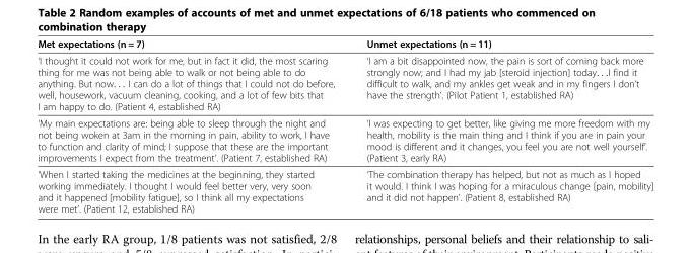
<table><thead><tr><td>Met expectations (n = 7)</td><td>Unmet expectations (n = 11)</td></tr></thead><tbody><tr><td>‘I thought it could not work for me, but in fact it did, the most scaring thing for me was not being able to walk or not being able to do anything. But now. . . I can do a lot of things that I could not do before, well, housework, vacuum cleaning, cooking, and a lot of few bits that I am happy to do. (Patient 4, established RA)</td><td>‘I am a bit disappointed now, the pain is sort of coming back more strongly now; and I had my jab [steroid injection] today. . .I find it difficult to walk, and my ankles get weak and in my fingers I don’t have the strength’. (Pilot Patient 1, established RA)</td></tr><tr><td>‘My main expectations are: being able to sleep through the night and not being woken at 3am in the morning in pain, ability to work, I have to function and clarity of mind; I suppose that these are the important improvements I expect from the treatment’. (Patient 7, established RA)</td><td>‘I was expecting to get better, like giving me more freedom with my health, mobility is the main thing and I think if you are in pain your mood is different and it changes, you feel you are not well yourself’. (Patient 3, early RA)</td></tr><tr><td>‘When I started taking the medicines at the beginning, they started working immediately. I thought I would feel better very, very soon and it happened [mobility fatigue], so I think all my expectations were met’. (Patient 12, established RA)</td><td>‘The combination therapy has helped, but not as much as I hoped it would. I think I was hoping for a miraculous change [pain, mobility] and it did not happen’. (Patient 8, established RA)</td></tr></tbody></table>